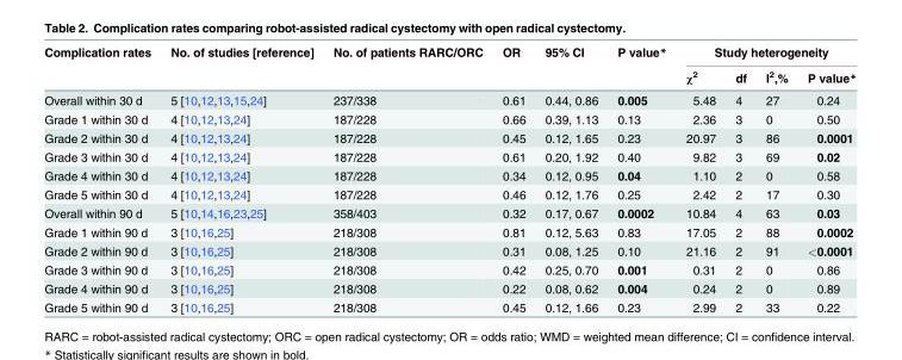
<table><thead><tr><td rowspan="2">Complication rates</td><td rowspan="2">No. of studies [reference]</td><td rowspan="2">No. of patients RARC/ORC</td><td rowspan="2">OR</td><td rowspan="2">95% CI</td><td rowspan="2">P value*</td><td colspan="4">Study heterogeneity</td></tr><tr><td>χ<sup>2</sup></td><td>df</td><td>I<sup>2</sup>,%</td><td>P value*</td></tr></thead><tbody><tr><td>Overall within 30 d</td><td>5 [10,12,13,15,24]</td><td>237/338</td><td>0.61</td><td>0.44, 0.86</td><td>0.005</td><td>5.48</td><td>4</td><td>27</td><td>0.24</td></tr><tr><td>Grade 1 within 30 d</td><td>4 [10,12,13,24]</td><td>187/228</td><td>0.66</td><td>0.39, 1.13</td><td>0.13</td><td>2.36</td><td>3</td><td>0</td><td>0.50</td></tr><tr><td>Grade 2 within 30 d</td><td>4 [10,12,13,24]</td><td>187/228</td><td>0.45</td><td>0.12, 1.65</td><td>0.23</td><td>20.97</td><td>3</td><td>86</td><td>0.0001</td></tr><tr><td>Grade 3 within 30 d</td><td>4 [10,12,13,24]</td><td>187/228</td><td>0.61</td><td>0.20, 1.92</td><td>0.40</td><td>9.82</td><td>3</td><td>69</td><td>0.02</td></tr><tr><td>Grade 4 within 30 d</td><td>4 [10,12,13,24]</td><td>187/228</td><td>0.34</td><td>0.12, 0.95</td><td>0.04</td><td>1.10</td><td>2</td><td>0</td><td>0.58</td></tr><tr><td>Grade 5 within 30 d</td><td>4 [10,12,13,24]</td><td>187/228</td><td>0.46</td><td>0.12, 1.76</td><td>0.25</td><td>2.42</td><td>2</td><td>17</td><td>0.30</td></tr><tr><td>Overall within 90 d</td><td>5 [10,14,16,23,25]</td><td>358/403</td><td>0.32</td><td>0.17, 0.67</td><td>0.0002</td><td>10.84</td><td>4</td><td>63</td><td>0.03</td></tr><tr><td>Grade 1 within 90 d</td><td>3 [10,16,25]</td><td>218/308</td><td>0.81</td><td>0.12, 5.63</td><td>0.83</td><td>17.05</td><td>2</td><td>88</td><td>0.0002</td></tr><tr><td>Grade 2 within 90 d</td><td>3 [10,16,25]</td><td>218/308</td><td>0.31</td><td>0.08, 1.25</td><td>0.10</td><td>21.16</td><td>2</td><td>91</td><td>&lt;0.0001</td></tr><tr><td>Grade 3 within 90 d</td><td>3 [10,16,25]</td><td>218/308</td><td>0.42</td><td>0.25, 0.70</td><td>0.001</td><td>0.31</td><td>2</td><td>0</td><td>0.86</td></tr><tr><td>Grade 4 within 90 d</td><td>3 [10,16,25]</td><td>218/308</td><td>0.22</td><td>0.08, 0.62</td><td>0.004</td><td>0.24</td><td>2</td><td>0</td><td>0.89</td></tr><tr><td>Grade 5 within 90 d</td><td>3 [10,16,25]</td><td>218/308</td><td>0.45</td><td>0.12, 1.66</td><td>0.23</td><td>2.99</td><td>2</td><td>33</td><td>0.22</td></tr></tbody></table>